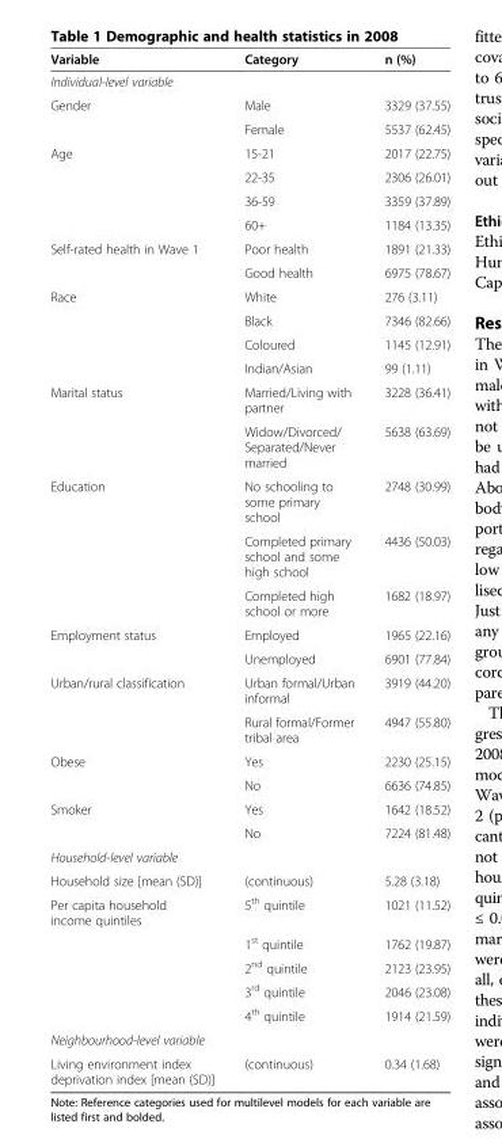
<table><thead><tr><td>Variable</td><td>Category</td><td>n (%)</td></tr></thead><tbody><tr><td colspan="3">Individual-level variable</td></tr><tr><td rowspan="2">Gender</td><td>Male</td><td>3329 (37.55)</td></tr><tr><td>Female</td><td>5537 (62.45)</td></tr><tr><td rowspan="4">Age</td><td>15-21</td><td>2017 (22.75)</td></tr><tr><td>22-35</td><td>2306 (26.01)</td></tr><tr><td>36-59</td><td>3359 (37.89)</td></tr><tr><td>60+</td><td>1184 (13.35)</td></tr><tr><td rowspan="2">Self-rated health in Wave 1</td><td>Poor health</td><td>1891 (21.33)</td></tr><tr><td>Good health</td><td>6975 (78.67)</td></tr><tr><td rowspan="4">Race</td><td>White</td><td>276 (3.11)</td></tr><tr><td>Black</td><td>7346 (82.66)</td></tr><tr><td>Coloured</td><td>1145 (12.91)</td></tr><tr><td>Indian/Asian</td><td>99 (1.11)</td></tr><tr><td rowspan="2">Marital status</td><td>Married/Living with partner</td><td>3228 (36.41)</td></tr><tr><td>Widow/Divorced/ Separated/Never married</td><td>5638 (63.69)</td></tr><tr><td rowspan="3">Education</td><td>No schooling to some primary school</td><td>2748 (30.99)</td></tr><tr><td>Completed primary school and some high school</td><td>4436 (50.03)</td></tr><tr><td>Completed high school or more</td><td>1682 (18.97)</td></tr><tr><td rowspan="2">Employment status</td><td>Employed</td><td>1965 (22.16)</td></tr><tr><td>Unemployed</td><td>6901 (77.84)</td></tr><tr><td rowspan="2">Urban/rural classification</td><td>Urban formal/Urban informal</td><td>3919 (44.20)</td></tr><tr><td>Rural formal/Former tribal area</td><td>4947 (55.80)</td></tr><tr><td rowspan="2">Obese</td><td>Yes</td><td>2230 (25.15)</td></tr><tr><td>No</td><td>6636 (74.85)</td></tr><tr><td rowspan="2">Smoker</td><td>Yes</td><td>1642 (18.52)</td></tr><tr><td>No</td><td>7224 (81.48)</td></tr><tr><td colspan="3">Household-level variable</td></tr><tr><td>Household size [mean (SD)]</td><td>(continuous)</td><td>5.28 (3.18)</td></tr><tr><td rowspan="5">Per capita household income quintiles</td><td>5<sup>th</sup> quintile</td><td>1021 (11.52)</td></tr><tr><td>1<sup>st</sup> quintile</td><td>1762 (19.87)</td></tr><tr><td>2<sup>nd</sup> quintile</td><td>2123 (23.95)</td></tr><tr><td>3<sup>rd</sup> quintile</td><td>2046 (23.08)</td></tr><tr><td>4<sup>th</sup> quintile</td><td>1914 (21.59)</td></tr><tr><td colspan="3">Neighbourhood-level variable</td></tr><tr><td>Living environment index deprivation index [mean (SD)]</td><td>(continuous)</td><td>0.34 (1.68)</td></tr></tbody></table>